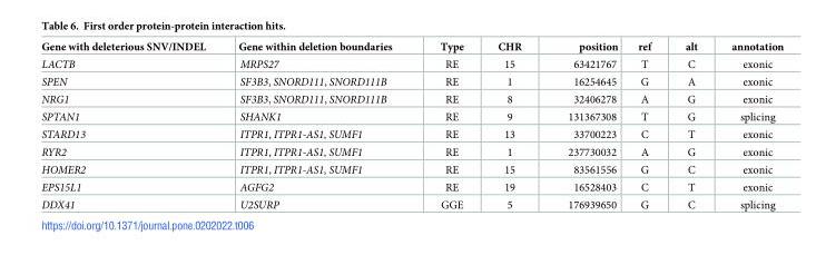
<table><thead><tr><td>Gene with deleterious SNV/INDEL</td><td>Gene within deletion boundaries</td><td>Type</td><td>CHR</td><td>position</td><td>ref</td><td>alt</td><td>annotation</td></tr></thead><tbody><tr><td>LACTB</td><td>MRPS27</td><td>RE</td><td>15</td><td>63421767</td><td>T</td><td>C</td><td>exonic</td></tr><tr><td>SPEN</td><td>SF3B3, SNORD111, SNORD111B</td><td>RE</td><td>1</td><td>16254645</td><td>G</td><td>A</td><td>exonic</td></tr><tr><td>NRG1</td><td>SF3B3, SNORD111, SNORD111B</td><td>RE</td><td>8</td><td>32406278</td><td>A</td><td>G</td><td>exonic</td></tr><tr><td>SPTAN1</td><td>SHANK1</td><td>RE</td><td>9</td><td>131367308</td><td>T</td><td>G</td><td>splicing</td></tr><tr><td>STARD13</td><td>ITPR1, ITPR1-AS1, SUMF1</td><td>RE</td><td>13</td><td>33700223</td><td>C</td><td>T</td><td>exonic</td></tr><tr><td>RYR2</td><td>ITPR1, ITPR1-AS1, SUMF1</td><td>RE</td><td>1</td><td>237730032</td><td>A</td><td>G</td><td>exonic</td></tr><tr><td>HOMER2</td><td>ITPR1, ITPR1-AS1, SUMF1</td><td>RE</td><td>15</td><td>83561556</td><td>G</td><td>C</td><td>exonic</td></tr><tr><td>EPS15L1</td><td>AGFG2</td><td>RE</td><td>19</td><td>16528403</td><td>C</td><td>T</td><td>exonic</td></tr><tr><td>DDX41</td><td>U2SURP</td><td>GGE</td><td>5</td><td>176939650</td><td>G</td><td>C</td><td>splicing</td></tr></tbody></table>